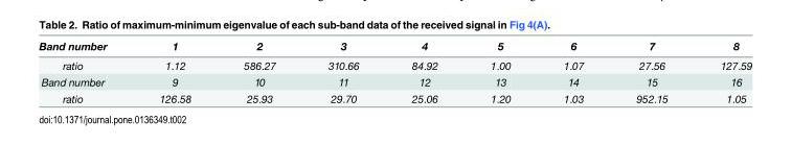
<table><thead><tr><td>Band number</td><td>1</td><td>2</td><td>3</td><td>4</td><td>5</td><td>6</td><td>7</td><td>8</td></tr></thead><tbody><tr><td>ratio</td><td>1.12</td><td>586.27</td><td>310.66</td><td>84.92</td><td>1.00</td><td>1.07</td><td>27.56</td><td>127.59</td></tr><tr><td>Band number</td><td>9</td><td>10</td><td>11</td><td>12</td><td>13</td><td>14</td><td>15</td><td>16</td></tr><tr><td>ratio</td><td>126.58</td><td>25.93</td><td>29.70</td><td>25.06</td><td>1.20</td><td>1.03</td><td>952.15</td><td>1.05</td></tr></tbody></table>